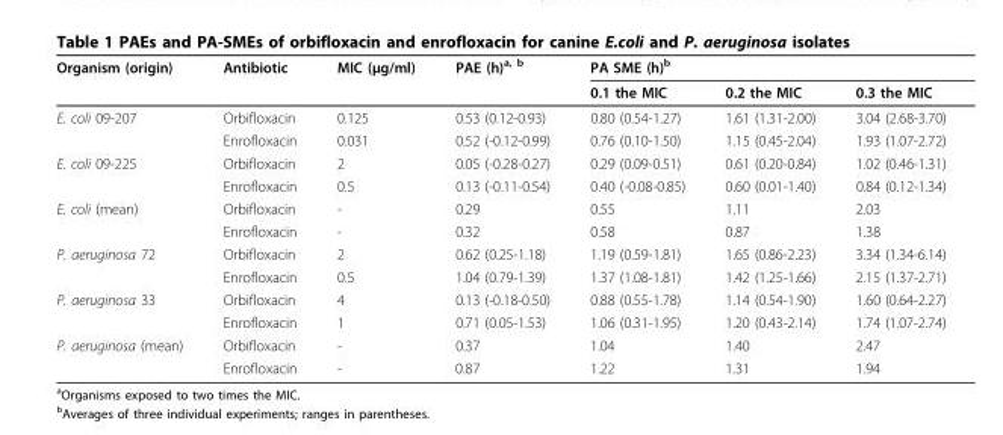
<table><thead><tr><td rowspan="2">Organism (origin)</td><td rowspan="2">Antibiotic</td><td rowspan="2">MIC (μg/ml)</td><td rowspan="2">PAE (h)<sup>a, b</sup></td><td colspan="3">PA SME (h)<sup>b</sup></td></tr><tr><td>0.1 the MIC</td><td>0.2 the MIC</td><td>0.3 the MIC</td></tr></thead><tbody><tr><td rowspan="2">E. coli 09-207</td><td>Orbifloxacin</td><td>0.125</td><td>0.53 (0.12-0.93)</td><td>0.80 (0.54-1.27)</td><td>1.61 (1.31-2.00)</td><td>3.04 (2.68-3.70)</td></tr><tr><td>Enrofloxacin</td><td>0.031</td><td>0.52 (-0.12-0.99)</td><td>0.76 (0.10-1.50)</td><td>1.15 (0.45-2.04)</td><td>1.93 (1.07-2.72)</td></tr><tr><td rowspan="2">E. coli 09-225</td><td>Orbifloxacin</td><td>2</td><td>0.05 (-0.28-0.27)</td><td>0.29 (0.09-0.51)</td><td>0.61 (0.20-0.84)</td><td>1.02 (0.46-1.31)</td></tr><tr><td>Enrofloxacin</td><td>0.5</td><td>0.13 (-0.11-0.54)</td><td>0.40 (-0.08-0.85)</td><td>0.60 (0.01-1.40)</td><td>0.84 (0.12-1.34)</td></tr><tr><td rowspan="2">E. coli (mean)</td><td>Orbifloxacin</td><td>-</td><td>0.29</td><td>0.55</td><td>1.11</td><td>2.03</td></tr><tr><td>Enrofloxacin</td><td>-</td><td>0.32</td><td>0.58</td><td>0.87</td><td>1.38</td></tr><tr><td rowspan="2">P. aeruginosa 72</td><td>Orbifloxacin</td><td>2</td><td>0.62 (0.25-1.18)</td><td>1.19 (0.59-1.81)</td><td>1.65 (0.86-2.23)</td><td>3.34 (1.34-6.14)</td></tr><tr><td>Enrofloxacin</td><td>0.5</td><td>1.04 (0.79-1.39)</td><td>1.37 (1.08-1.81)</td><td>1.42 (1.25-1.66)</td><td>2.15 (1.37-2.71)</td></tr><tr><td rowspan="2">P. aeruginosa 33</td><td>Orbifloxacin</td><td>4</td><td>0.13 (-0.18-0.50)</td><td>0.88 (0.55-1.78)</td><td>1.14 (0.54-1.90)</td><td>1.60 (0.64-2.27)</td></tr><tr><td>Enrofloxacin</td><td>1</td><td>0.71 (0.05-1.53)</td><td>1.06 (0.31-1.95)</td><td>1.20 (0.43-2.14)</td><td>1.74 (1.07-2.74)</td></tr><tr><td rowspan="2">P. aeruginosa (mean)</td><td>Orbifloxacin</td><td>-</td><td>0.37</td><td>1.04</td><td>1.40</td><td>2.47</td></tr><tr><td>Enrofloxacin</td><td>-</td><td>0.87</td><td>1.22</td><td>1.31</td><td>1.94</td></tr></tbody></table>